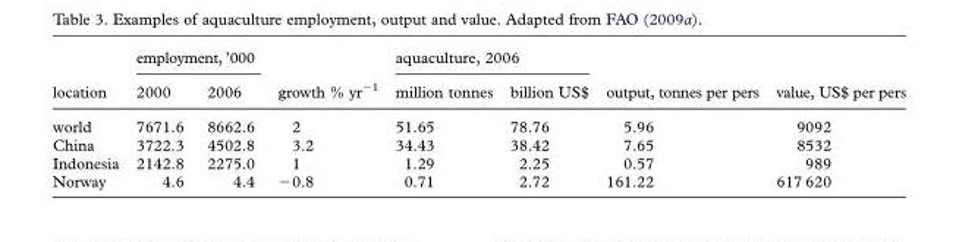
<table><thead><tr><td rowspan="2">location</td><td colspan="2">employment, ’000</td><td rowspan="2">growth % yr<sup>−1</sup></td><td colspan="2">aquaculture, 2006</td><td rowspan="2">output, tonnes per pers</td><td rowspan="2">value, US$ per pers</td></tr><tr><td>2000</td><td>2006</td><td>million tonnes</td><td>billion US$</td></tr></thead><tbody><tr><td>world</td><td>7671.6</td><td>8662.6</td><td>2</td><td>51.65</td><td>78.76</td><td>5.96</td><td>9092</td></tr><tr><td>China</td><td>3722.3</td><td>4502.8</td><td>3.2</td><td>34.43</td><td>38.42</td><td>7.65</td><td>8532</td></tr><tr><td>Indonesia</td><td>2142.8</td><td>2275.0</td><td>1</td><td>1.29</td><td>2.25</td><td>0.57</td><td>989</td></tr><tr><td>Norway</td><td>4.6</td><td>4.4</td><td>−0.8</td><td>0.71</td><td>2.72</td><td>161.22</td><td>617 620</td></tr></tbody></table>